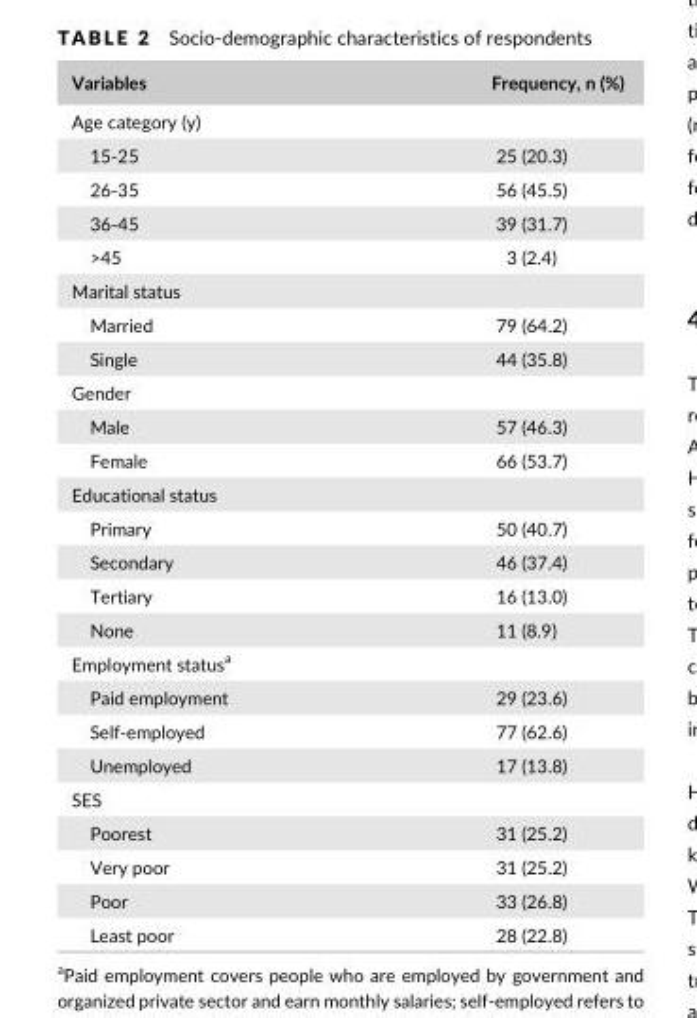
<table><thead><tr><td>Variables</td><td>Frequency, n (%)</td></tr></thead><tbody><tr><td colspan="2">Age category (y)</td></tr><tr><td>15- 25</td><td>25 (20.3)</td></tr><tr><td>26- 35</td><td>56 (45.5)</td></tr><tr><td>36- 45</td><td>39 (31.7)</td></tr><tr><td>&gt;45</td><td>3 (2.4)</td></tr><tr><td colspan="2">Marital status</td></tr><tr><td>Married</td><td>79 (64.2)</td></tr><tr><td>Single</td><td>44 (35.8)</td></tr><tr><td colspan="2">Gender</td></tr><tr><td>Male</td><td>57 (46.3)</td></tr><tr><td>Female</td><td>66 (53.7)</td></tr><tr><td colspan="2">Educational status</td></tr><tr><td>Primary</td><td>50 (40.7)</td></tr><tr><td>Secondary</td><td>46 (37.4)</td></tr><tr><td>Tertiary</td><td>16 (13.0)</td></tr><tr><td>None</td><td>11 (8.9)</td></tr><tr><td colspan="2">Employment status<sup>a</sup></td></tr><tr><td>Paid employment</td><td>29 (23.6)</td></tr><tr><td>Self- employed</td><td>77 (62.6)</td></tr><tr><td>Unemployed</td><td>17 (13.8)</td></tr><tr><td colspan="2">SES</td></tr><tr><td>Poorest</td><td>31 (25.2)</td></tr><tr><td>Very poor</td><td>31 (25.2)</td></tr><tr><td>Poor</td><td>33 (26.8)</td></tr><tr><td>Least poor</td><td>28 (22.8)</td></tr></tbody></table>